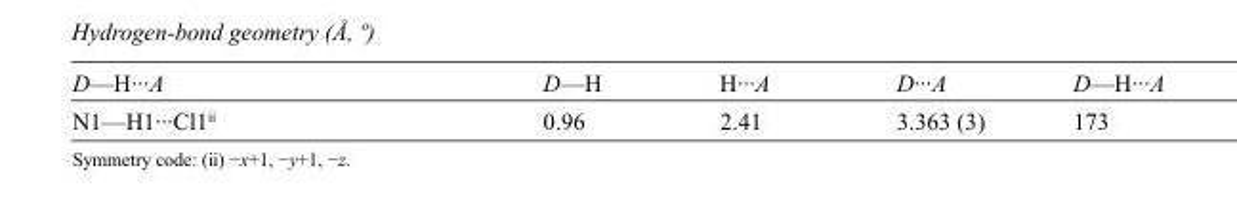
<table><tbody><tr><td>D—H···A</td><td>D—H</td><td>H···A</td><td>D···A</td><td>D—H···A</td></tr><tr><td>N1—H1···Cl1<sup>ii</sup></td><td>0.96</td><td>2.41</td><td>3.363 (3)</td><td>173</td></tr></tbody></table>